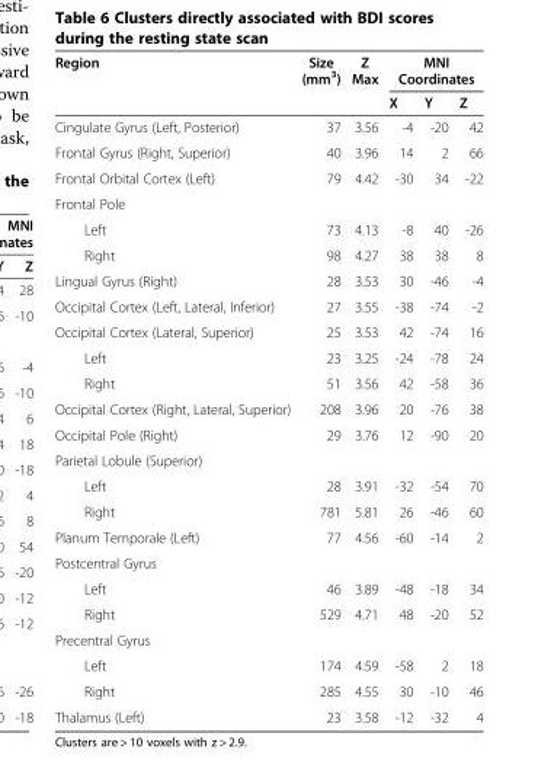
<table><thead><tr><td rowspan="2">Region</td><td rowspan="2">Size (mm<sup>3</sup>)</td><td rowspan="2">Z Max</td><td colspan="3">MNI Coordinates</td></tr><tr><td>X</td><td>Y</td><td>Z</td></tr></thead><tbody><tr><td>Cingulate Gyrus (Left, Posterior)</td><td>37</td><td>3.56</td><td>-4</td><td>-20</td><td>42</td></tr><tr><td>Frontal Gyrus (Right, Superior)</td><td>40</td><td>3.96</td><td>14</td><td>2</td><td>66</td></tr><tr><td>Frontal Orbital Cortex (Left)</td><td>79</td><td>4.42</td><td>-30</td><td>34</td><td>-22</td></tr><tr><td colspan="6">Frontal Pole</td></tr><tr><td>Left</td><td>73</td><td>4.13</td><td>-8</td><td>40</td><td>-26</td></tr><tr><td>Right</td><td>98</td><td>4.27</td><td>38</td><td>38</td><td>8</td></tr><tr><td>Lingual Gyrus (Right)</td><td>28</td><td>3.53</td><td>30</td><td>-46</td><td>-4</td></tr><tr><td>Occipital Cortex (Left, Lateral, Inferior)</td><td>27</td><td>3.55</td><td>-38</td><td>-74</td><td>-2</td></tr><tr><td>Occipital Cortex (Lateral, Superior)</td><td>25</td><td>3.53</td><td>42</td><td>-74</td><td>16</td></tr><tr><td>Left</td><td>23</td><td>3.25</td><td>-24</td><td>-78</td><td>24</td></tr><tr><td>Right</td><td>51</td><td>3.56</td><td>42</td><td>-58</td><td>36</td></tr><tr><td>Occipital Cortex (Right, Lateral, Superior)</td><td>208</td><td>3.96</td><td>20</td><td>-76</td><td>38</td></tr><tr><td>Occipital Pole (Right)</td><td>29</td><td>3.76</td><td>12</td><td>-90</td><td>20</td></tr><tr><td colspan="6">Parietal Lobule (Superior)</td></tr><tr><td>Left</td><td>28</td><td>3.91</td><td>-32</td><td>-54</td><td>70</td></tr><tr><td>Right</td><td>781</td><td>5.81</td><td>26</td><td>-46</td><td>60</td></tr><tr><td>Planum Temporale (Left)</td><td>77</td><td>4.56</td><td>-60</td><td>-14</td><td>2</td></tr><tr><td colspan="6">Postcentral Gyrus</td></tr><tr><td>Left</td><td>46</td><td>3.89</td><td>-48</td><td>-18</td><td>34</td></tr><tr><td>Right</td><td>529</td><td>4.71</td><td>48</td><td>-20</td><td>52</td></tr><tr><td colspan="6">Precentral Gyrus</td></tr><tr><td>Left</td><td>174</td><td>4.59</td><td>-58</td><td>2</td><td>18</td></tr><tr><td>Right</td><td>285</td><td>4.55</td><td>30</td><td>-10</td><td>46</td></tr><tr><td>Thalamus (Left)</td><td>23</td><td>3.58</td><td>-12</td><td>-32</td><td>4</td></tr></tbody></table>